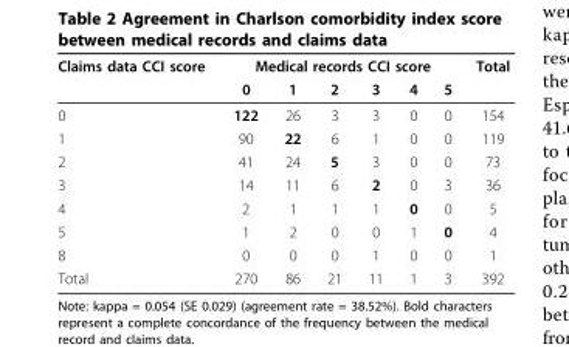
<table><thead><tr><td rowspan="2">Claims data CCI score</td><td colspan="6">Medical records CCI score</td><td rowspan="2">Total</td></tr><tr><td>0</td><td>1</td><td>2</td><td>3</td><td>4</td><td>5</td></tr></thead><tbody><tr><td>0</td><td>122</td><td>26</td><td>3</td><td>3</td><td>0</td><td>0</td><td>154</td></tr><tr><td>1</td><td>90</td><td>22</td><td>6</td><td>1</td><td>0</td><td>0</td><td>119</td></tr><tr><td>2</td><td>41</td><td>24</td><td>5</td><td>3</td><td>0</td><td>0</td><td>73</td></tr><tr><td>3</td><td>14</td><td>11</td><td>6</td><td>2</td><td>0</td><td>3</td><td>36</td></tr><tr><td>4</td><td>2</td><td>1</td><td>1</td><td>1</td><td>0</td><td>0</td><td>5</td></tr><tr><td>5</td><td>1</td><td>2</td><td>0</td><td>0</td><td>1</td><td>0</td><td>4</td></tr><tr><td>8</td><td>0</td><td>0</td><td>0</td><td>1</td><td>0</td><td>0</td><td>1</td></tr><tr><td>Total</td><td>270</td><td>86</td><td>21</td><td>11</td><td>1</td><td>3</td><td>392</td></tr></tbody></table>